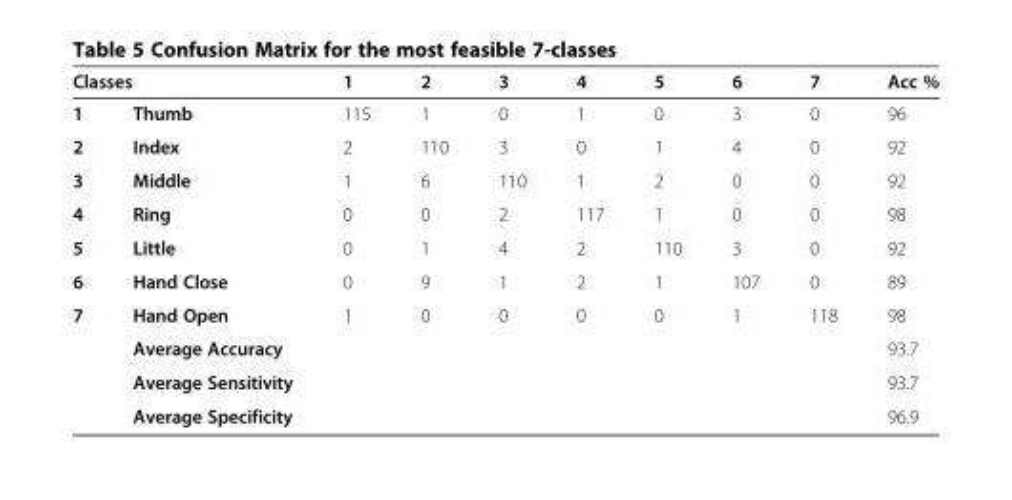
<table><thead><tr><td colspan="2">Classes</td><td rowspan="2">1 115</td><td rowspan="2">2 1</td><td rowspan="2">3 0</td><td rowspan="2">4 1</td><td rowspan="2">5 0</td><td rowspan="2">6 3</td><td rowspan="2">7 0</td><td rowspan="2">Acc % 96</td></tr><tr><td>1</td><td>Thumb</td></tr></thead><tbody><tr><td>2</td><td>Index</td><td>2</td><td>110</td><td>3</td><td>0</td><td>1</td><td>4</td><td>0</td><td>92</td></tr><tr><td>3</td><td>Middle</td><td>1</td><td>6</td><td>110</td><td>1</td><td>2</td><td>0</td><td>0</td><td>92</td></tr><tr><td>4</td><td>Ring</td><td>0</td><td>0</td><td>2</td><td>117</td><td>1</td><td>0</td><td>0</td><td>98</td></tr><tr><td>5</td><td>Little</td><td>0</td><td>1</td><td>4</td><td>2</td><td>110</td><td>3</td><td>0</td><td>92</td></tr><tr><td>6</td><td>Hand Close</td><td>0</td><td>9</td><td>1</td><td>2</td><td>1</td><td>107</td><td>0</td><td>89</td></tr><tr><td rowspan="4">7</td><td>Hand Open</td><td>1</td><td>0</td><td>0</td><td>0</td><td>0</td><td>1</td><td>118</td><td>98</td></tr><tr><td>Average Accuracy</td><td></td><td></td><td></td><td></td><td></td><td></td><td></td><td>93.7</td></tr><tr><td>Average Sensitivity</td><td></td><td></td><td></td><td></td><td></td><td></td><td></td><td>93.7</td></tr><tr><td>Average Specificity</td><td></td><td></td><td></td><td></td><td></td><td></td><td></td><td>96.9</td></tr></tbody></table>